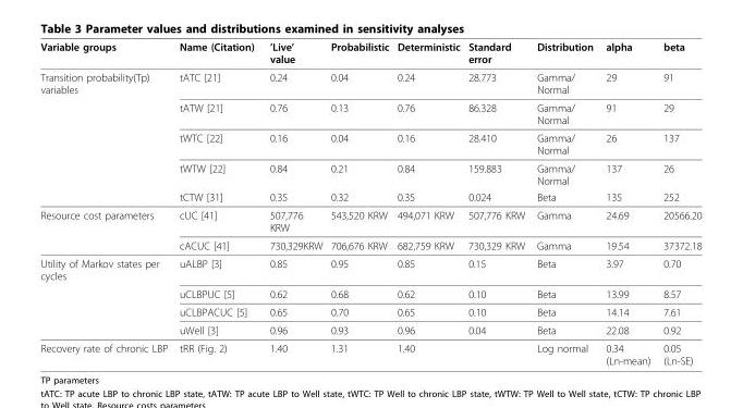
<table><thead><tr><td>Variable groups</td><td>Name (Citation)</td><td>’Live’ value</td><td>Probabilistic</td><td>Deterministic</td><td>Standard error</td><td>Distribution</td><td>alpha</td><td>beta</td></tr></thead><tbody><tr><td rowspan="5">Transition probability(Tp) variables</td><td>tATC [21]</td><td>0.24</td><td>0.04</td><td>0.24</td><td>28.773</td><td>Gamma/ Normal</td><td>29</td><td>91</td></tr><tr><td>tATW [21]</td><td>0.76</td><td>0.13</td><td>0.76</td><td>86.328</td><td>Gamma/ Normal</td><td>91</td><td>29</td></tr><tr><td>tWTC [22]</td><td>0.16</td><td>0.04</td><td>0.16</td><td>28.410</td><td>Gamma/ Normal</td><td>26</td><td>137</td></tr><tr><td>tWTW [22]</td><td>0.84</td><td>0.21</td><td>0.84</td><td>159.883</td><td>Gamma/ Normal</td><td>137</td><td>26</td></tr><tr><td>tCTW [31]</td><td>0.35</td><td>0.32</td><td>0.35</td><td>0.024</td><td>Beta</td><td>135</td><td>252</td></tr><tr><td rowspan="2">Resource cost parameters</td><td>cUC [41]</td><td>507,776 KRW</td><td>543,520 KRW</td><td>494,071 KRW</td><td>507,776 KRW</td><td>Gamma</td><td>24.69</td><td>20566.20</td></tr><tr><td>cACUC [41]</td><td>730,329KRW</td><td>706,676 KRW</td><td>682,759 KRW</td><td>730,329 KRW</td><td>Gamma</td><td>19.54</td><td>37372.18</td></tr><tr><td rowspan="4">Utility of Markov states per cycles</td><td>uALBP [3]</td><td>0.85</td><td>0.95</td><td>0.85</td><td>0.15</td><td>Beta</td><td>3.97</td><td>0.70</td></tr><tr><td>uCLBPUC [5]</td><td>0.62</td><td>0.68</td><td>0.62</td><td>0.10</td><td>Beta</td><td>13.99</td><td>8.57</td></tr><tr><td>uCLBPACUC [5]</td><td>0.65</td><td>0.70</td><td>0.65</td><td>0.10</td><td>Beta</td><td>14.14</td><td>7.61</td></tr><tr><td>uWell [3]</td><td>0.96</td><td>0.93</td><td>0.96</td><td>0.04</td><td>Beta</td><td>22.08</td><td>0.92</td></tr><tr><td>Recovery rate of chronic LBP</td><td>tRR (Fig. 2)</td><td>1.40</td><td>1.31</td><td>1.40</td><td></td><td>Log normal</td><td>0.34 (Ln-mean)</td><td>0.05 (Ln-SE)</td></tr></tbody></table>